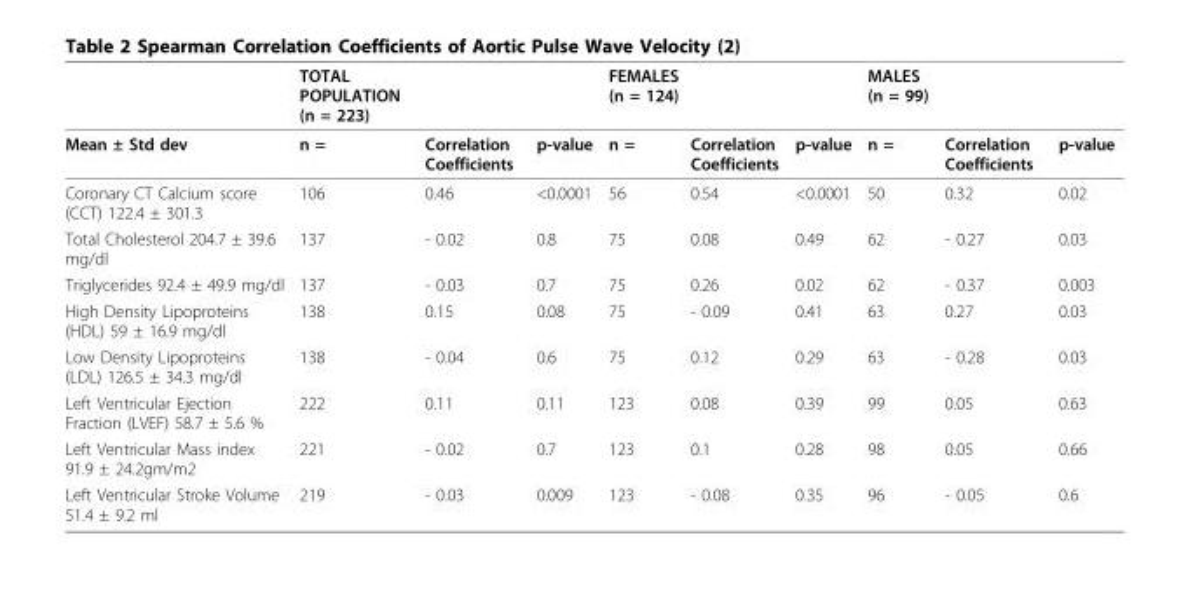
<table><thead><tr><td></td><td>TOTAL POPULATION (n = 223)</td><td></td><td></td><td>FEMALES (n = 124)</td><td></td><td></td><td>MALES (n = 99)</td><td></td><td></td></tr></thead><tbody><tr><td>Mean ± Std dev</td><td>n =</td><td>Correlation Coefficients</td><td>p-value</td><td>n =</td><td>Correlation Coefficients</td><td>p-value</td><td>n =</td><td>Correlation Coefficients</td><td>p-value</td></tr><tr><td>Coronary CT Calcium score (CCT) 122.4 ± 301.3</td><td>106</td><td>0.46</td><td>&lt;0.0001</td><td>56</td><td>0.54</td><td>&lt;0.0001</td><td>50</td><td>0.32</td><td>0.02</td></tr><tr><td>Total Cholesterol 204.7 ± 39.6 mg/dl</td><td>137</td><td>- 0.02</td><td>0.8</td><td>75</td><td>0.08</td><td>0.49</td><td>62</td><td>- 0.27</td><td>0.03</td></tr><tr><td>Triglycerides 92.4 ± 49.9 mg/dl</td><td>137</td><td>- 0.03</td><td>0.7</td><td>75</td><td>0.26</td><td>0.02</td><td>62</td><td>- 0.37</td><td>0.003</td></tr><tr><td>High Density Lipoproteins (HDL) 59 ± 16.9 mg/dl</td><td>138</td><td>0.15</td><td>0.08</td><td>75</td><td>- 0.09</td><td>0.41</td><td>63</td><td>0.27</td><td>0.03</td></tr><tr><td>Low Density Lipoproteins (LDL) 126.5 ± 34.3 mg/dl</td><td>138</td><td>- 0.04</td><td>0.6</td><td>75</td><td>0.12</td><td>0.29</td><td>63</td><td>- 0.28</td><td>0.03</td></tr><tr><td>Left Ventricular Ejection Fraction (LVEF) 58.7 ± 5.6 %</td><td>222</td><td>0.11</td><td>0.11</td><td>123</td><td>0.08</td><td>0.39</td><td>99</td><td>0.05</td><td>0.63</td></tr><tr><td>Left Ventricular Mass index 91.9 ± 24.2gm/m2</td><td>221</td><td>- 0.02</td><td>0.7</td><td>123</td><td>0.1</td><td>0.28</td><td>98</td><td>0.05</td><td>0.66</td></tr><tr><td>Left Ventricular Stroke Volume 51.4 ± 9.2 ml</td><td>219</td><td>- 0.03</td><td>0.009</td><td>123</td><td>- 0.08</td><td>0.35</td><td>96</td><td>- 0.05</td><td>0.6</td></tr></tbody></table>